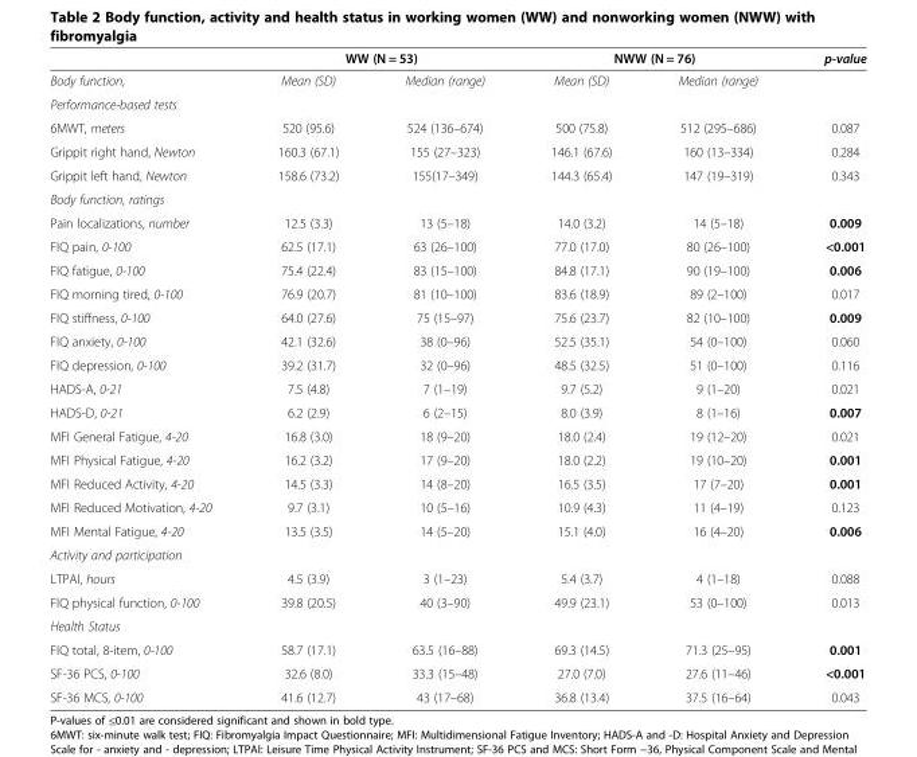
<table><thead><tr><td rowspan="2">Body function,</td><td colspan="2">WW (N = 53)</td><td colspan="2">NWW (N = 76)</td><td rowspan="2">p-value</td></tr><tr><td>Mean (SD)</td><td>Median (range)</td><td>Mean (SD)</td><td>Median (range)</td></tr></thead><tbody><tr><td colspan="6">Performance-based tests</td></tr><tr><td>6MWT, meters</td><td>520 (95.6)</td><td>524 (136–674)</td><td>500 (75.8)</td><td>512 (295–686)</td><td>0.087</td></tr><tr><td>Grippit right hand, Newton</td><td>160.3 (67.1)</td><td>155 (27–323)</td><td>146.1 (67.6)</td><td>160 (13–334)</td><td>0.284</td></tr><tr><td>Grippit left hand, Newton</td><td>158.6 (73.2)</td><td>155(17–349)</td><td>144.3 (65.4)</td><td>147 (19–319)</td><td>0.343</td></tr><tr><td colspan="6">Body function, ratings</td></tr><tr><td>Pain localizations, number</td><td>12.5 (3.3)</td><td>13 (5–18)</td><td>14.0 (3.2)</td><td>14 (5–18)</td><td>0.009</td></tr><tr><td>FIQ pain, 0-100</td><td>62.5 (17.1)</td><td>63 (26–100)</td><td>77.0 (17.0)</td><td>80 (26–100)</td><td>&lt;0.001</td></tr><tr><td>FIQ fatigue, 0-100</td><td>75.4 (22.4)</td><td>83 (15–100)</td><td>84.8 (17.1)</td><td>90 (19–100)</td><td>0.006</td></tr><tr><td>FIQ morning tired, 0-100</td><td>76.9 (20.7)</td><td>81 (10–100)</td><td>83.6 (18.9)</td><td>89 (2–100)</td><td>0.017</td></tr><tr><td>FIQ stiffness, 0-100</td><td>64.0 (27.6)</td><td>75 (15–97)</td><td>75.6 (23.7)</td><td>82 (10–100)</td><td>0.009</td></tr><tr><td>FIQ anxiety, 0-100</td><td>42.1 (32.6)</td><td>38 (0–96)</td><td>52.5 (35.1)</td><td>54 (0–100)</td><td>0.060</td></tr><tr><td>FIQ depression, 0-100</td><td>39.2 (31.7)</td><td>32 (0–96)</td><td>48.5 (32.5)</td><td>51 (0–100)</td><td>0.116</td></tr><tr><td>HADS-A, 0-21</td><td>7.5 (4.8)</td><td>7 (1–19)</td><td>9.7 (5.2)</td><td>9 (1–20)</td><td>0.021</td></tr><tr><td>HADS-D, 0-21</td><td>6.2 (2.9)</td><td>6 (2–15)</td><td>8.0 (3.9)</td><td>8 (1–16)</td><td>0.007</td></tr><tr><td>MFI General Fatigue, 4-20</td><td>16.8 (3.0)</td><td>18 (9–20)</td><td>18.0 (2.4)</td><td>19 (12–20)</td><td>0.021</td></tr><tr><td>MFI Physical Fatigue, 4-20</td><td>16.2 (3.2)</td><td>17 (9–20)</td><td>18.0 (2.2)</td><td>19 (10–20)</td><td>0.001</td></tr><tr><td>MFI Reduced Activity, 4-20</td><td>14.5 (3.3)</td><td>14 (8–20)</td><td>16.5 (3.5)</td><td>17 (7–20)</td><td>0.001</td></tr><tr><td>MFI Reduced Motivation, 4-20</td><td>9.7 (3.1)</td><td>10 (5–16)</td><td>10.9 (4.3)</td><td>11 (4–19)</td><td>0.123</td></tr><tr><td>MFI Mental Fatigue, 4-20</td><td>13.5 (3.5)</td><td>14 (5–20)</td><td>15.1 (4.0)</td><td>16 (4–20)</td><td>0.006</td></tr><tr><td colspan="6">Activity and participation</td></tr><tr><td>LTPAI, hours</td><td>4.5 (3.9)</td><td>3 (1–23)</td><td>5.4 (3.7)</td><td>4 (1–18)</td><td>0.088</td></tr><tr><td>FIQ physical function, 0-100</td><td>39.8 (20.5)</td><td>40 (3–90)</td><td>49.9 (23.1)</td><td>53 (0–100)</td><td>0.013</td></tr><tr><td colspan="6">Health Status</td></tr><tr><td>FIQ total, 8-item, 0-100</td><td>58.7 (17.1)</td><td>63.5 (16–88)</td><td>69.3 (14.5)</td><td>71.3 (25–95)</td><td>0.001</td></tr><tr><td>SF-36 PCS, 0-100</td><td>32.6 (8.0)</td><td>33.3 (15–48)</td><td>27.0 (7.0)</td><td>27.6 (11–46)</td><td>&lt;0.001</td></tr><tr><td>SF-36 MCS, 0-100</td><td>41.6 (12.7)</td><td>43 (17–68)</td><td>36.8 (13.4)</td><td>37.5 (16–64)</td><td>0.043</td></tr></tbody></table>